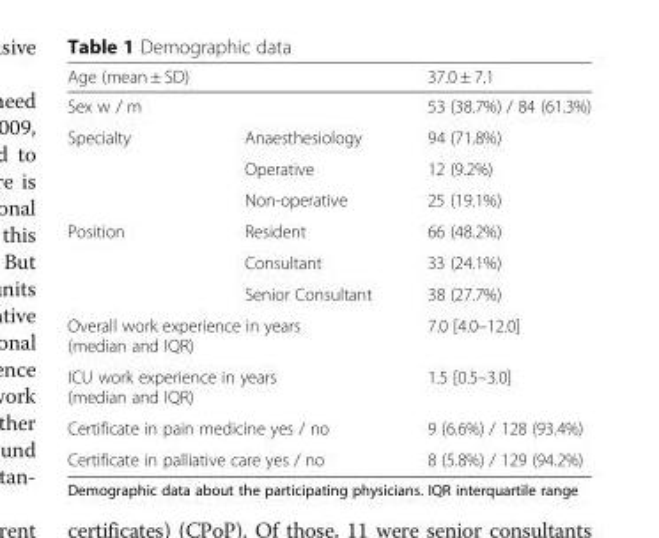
<table><thead><tr><td>Age (mean ± SD)</td><td></td><td>37.0 ± 7.1</td></tr></thead><tbody><tr><td>Sex w / m</td><td></td><td>53 (38.7%) / 84 (61.3%)</td></tr><tr><td rowspan="3">Specialty</td><td>Anaesthesiology</td><td>94 (71.8%)</td></tr><tr><td>Operative</td><td>12 (9.2%)</td></tr><tr><td>Non-operative</td><td>25 (19.1%)</td></tr><tr><td rowspan="3">Position</td><td>Resident</td><td>66 (48.2%)</td></tr><tr><td>Consultant</td><td>33 (24.1%)</td></tr><tr><td>Senior Consultant</td><td>38 (27.7%)</td></tr><tr><td colspan="2">Overall work experience in years (median and IQR)</td><td>7.0 [4.0–12.0]</td></tr><tr><td colspan="2">ICU work experience in years (median and IQR)</td><td>1.5 [0.5–3.0]</td></tr><tr><td colspan="2">Certificate in pain medicine yes / no</td><td>9 (6.6%) / 128 (93.4%)</td></tr><tr><td colspan="2">Certificate in palliative care yes / no</td><td>8 (5.8%) / 129 (94.2%)</td></tr></tbody></table>